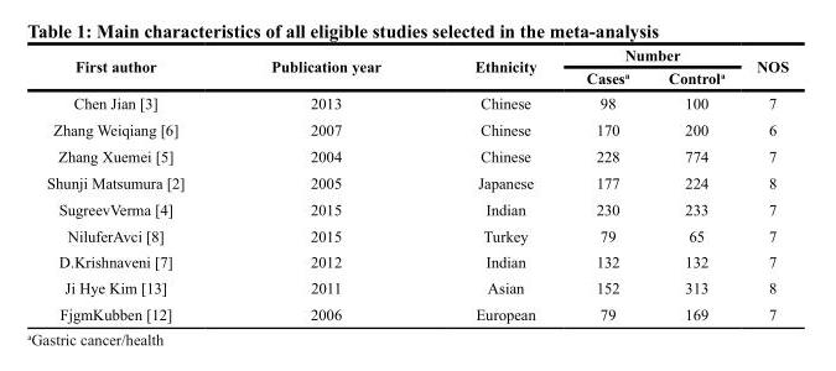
<table><thead><tr><td rowspan="2">First author</td><td rowspan="2">Publication year</td><td rowspan="2">Ethnicity</td><td colspan="2">Number</td><td rowspan="2">NOS</td></tr><tr><td>Cases<sup>a</sup></td><td>Control<sup>a</sup></td></tr></thead><tbody><tr><td>Chen Jian [3]</td><td>2013</td><td>Chinese</td><td>98</td><td>100</td><td>7</td></tr><tr><td>Zhang Weiqiang [6]</td><td>2007</td><td>Chinese</td><td>170</td><td>200</td><td>6</td></tr><tr><td>Zhang Xuemei [5]</td><td>2004</td><td>Chinese</td><td>228</td><td>774</td><td>7</td></tr><tr><td>Shunji Matsumura [2]</td><td>2005</td><td>Japanese</td><td>177</td><td>224</td><td>8</td></tr><tr><td>SugreevVerma [4]</td><td>2015</td><td>Indian</td><td>230</td><td>233</td><td>7</td></tr><tr><td>NiluferAvci [8]</td><td>2015</td><td>Turkey</td><td>79</td><td>65</td><td>7</td></tr><tr><td>D.Krishnaveni [7]</td><td>2012</td><td>Indian</td><td>132</td><td>132</td><td>7</td></tr><tr><td>Ji Hye Kim [13]</td><td>2011</td><td>Asian</td><td>152</td><td>313</td><td>8</td></tr><tr><td>FjgmKubben [12]</td><td>2006</td><td>European</td><td>79</td><td>169</td><td>7</td></tr></tbody></table>